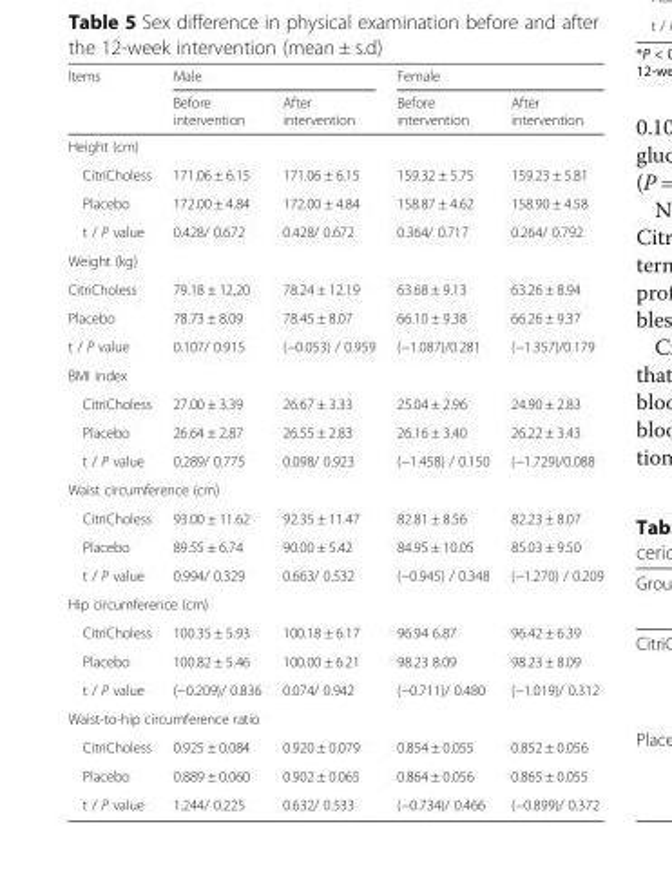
<table><thead><tr><td rowspan="2">Items</td><td colspan="2">Male</td><td colspan="2">Female</td></tr><tr><td>Before intervention</td><td>After intervention</td><td>Before intervention</td><td>After intervention</td></tr></thead><tbody><tr><td colspan="5">Height (cm)</td></tr><tr><td>CitriCholess</td><td>171.06 ± 6.15</td><td>171.06 ± 6.15</td><td>159.32 ± 5.75</td><td>159.23 ± 5.81</td></tr><tr><td>Placebo</td><td>172.00 ± 4.84</td><td>172.00 ± 4.84</td><td>158.87 ± 4.62</td><td>158.90 ± 4.58</td></tr><tr><td>t / P value</td><td>0.428/ 0.672</td><td>0.428/ 0.672</td><td>0.364/ 0.717</td><td>0.264/ 0.792</td></tr><tr><td colspan="5">Weight (kg)</td></tr><tr><td>CitriCholess</td><td>79.18 ± 12,20</td><td>78.24 ± 12.19</td><td>63.68 ± 9.13</td><td>63.26 ± 8.94</td></tr><tr><td>Placebo</td><td>78.73 ± 8.09</td><td>78.45 ± 8.07</td><td>66.10 ± 9.38</td><td>66.26 ± 9.37</td></tr><tr><td>t / P value</td><td>0.107/ 0.915</td><td>(−0.053) / 0.959</td><td>(−1.087)/0.281</td><td>(−1.357)/0.179</td></tr><tr><td colspan="5">BMI index</td></tr><tr><td>CitriCholess</td><td>27.00 ± 3.39</td><td>26.67 ± 3.33</td><td>25.04 ± 2.96</td><td>24.90 ± 2.83</td></tr><tr><td>Placebo</td><td>26.64 ± 2.87</td><td>26.55 ± 2.83</td><td>26.16 ± 3.40</td><td>26.22 ± 3.43</td></tr><tr><td>t / P value</td><td>0.289/ 0.775</td><td>0.098/ 0.923</td><td>(−1.458) / 0.150</td><td>(−1.729)/0.088</td></tr><tr><td colspan="5">Waist circumference (cm)</td></tr><tr><td>CitriCholess</td><td>93.00 ± 11.62</td><td>92.35 ± 11.47</td><td>82.81 ± 8.56</td><td>82.23 ± 8.07</td></tr><tr><td>Placebo</td><td>89.55 ± 6.74</td><td>90.00 ± 5.42</td><td>84.95 ± 10.05</td><td>85.03 ± 9.50</td></tr><tr><td>t / P value</td><td>0.994/ 0.329</td><td>0.663/ 0.532</td><td>(−0.945) / 0.348</td><td>(−1.270) / 0.209</td></tr><tr><td colspan="5">Hip circumference (cm)</td></tr><tr><td>CitriCholess</td><td>100.35 ± 5.93</td><td>100.18 ± 6.17</td><td>96.94 6.87</td><td>96.42 ± 6.39</td></tr><tr><td>Placebo</td><td>100.82 ± 5.46</td><td>100.00 ± 6.21</td><td>98.23 8.09</td><td>98.23 ± 8.09</td></tr><tr><td>t / P value</td><td>(−0.209)/ 0.836</td><td>0.074/ 0.942</td><td>(−0.711)/ 0.480</td><td>(−1.019)/ 0.312</td></tr><tr><td colspan="5">Waist-to-hip circumference ratio</td></tr><tr><td>CitriCholess</td><td>0.925 ± 0.084</td><td>0.920 ± 0.079</td><td>0.854 ± 0.055</td><td>0.852 ± 0.056</td></tr><tr><td>Placebo</td><td>0.889 ± 0.060</td><td>0.902 ± 0.065</td><td>0.864 ± 0.056</td><td>0.865 ± 0.055</td></tr><tr><td>t / P value</td><td>1.244/ 0.225</td><td>0.632/ 0.533</td><td>(−0.734)/ 0.466</td><td>(−0.899)/ 0.372</td></tr></tbody></table>